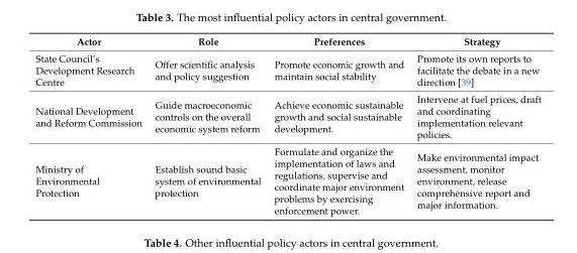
<table><thead><tr><td>Actor</td><td>Role</td><td>Preferences</td><td>Strategy</td></tr></thead><tbody><tr><td>State Council’s Development Research Centre</td><td>Offer scientific analysis and policy suggestion</td><td>Promote economic growth and maintain social stability</td><td>Promote its own reports to facilitate the debate in a new direction [39]</td></tr><tr><td>National Development and Reform Commission</td><td>Guide macroeconomic controls on the overall economic system reform</td><td>Achieve economic sustainable growth and social sustainable development.</td><td>Intervene at fuel prices, draft and coordinating implementation relevant policies.</td></tr><tr><td>Ministry of Environmental Protection</td><td>Establish sound basic system of environmental protection</td><td>Formulate and organize the implementation of laws and regulations, supervise and coordinate major environment problems by exercising enforcement power.</td><td>Make environmental impact assessment, monitor environment, release comprehensive report and major information.</td></tr></tbody></table>